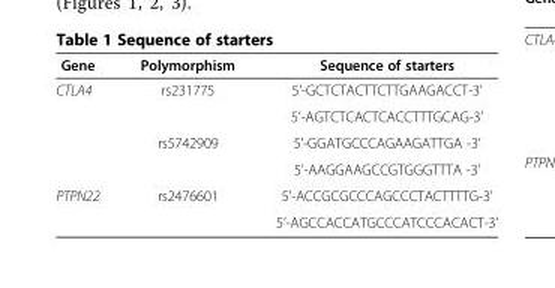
<table><thead><tr><td>Gene</td><td>Polymorphism</td><td>Sequence of starters</td></tr></thead><tbody><tr><td rowspan="4">CTLA4</td><td rowspan="2">rs231775</td><td>5’-GCTCTACTTCTTGAAGACCT-3’</td></tr><tr><td>5’-AGTCTCACTCACCTTTGCAG-3’</td></tr><tr><td rowspan="2">rs5742909</td><td>5’-GGATGCCCAGAAGATTGA -3’</td></tr><tr><td>5’-AAGGAAGCCGTGGGTTTA -3’</td></tr><tr><td rowspan="2">PTPN22</td><td rowspan="2">rs2476601</td><td>5’-ACCGCGCCCAGCCCTACTTTTG-3’</td></tr><tr><td>5’-AGCCACCATGCCCATCCCACACT-3’</td></tr></tbody></table>